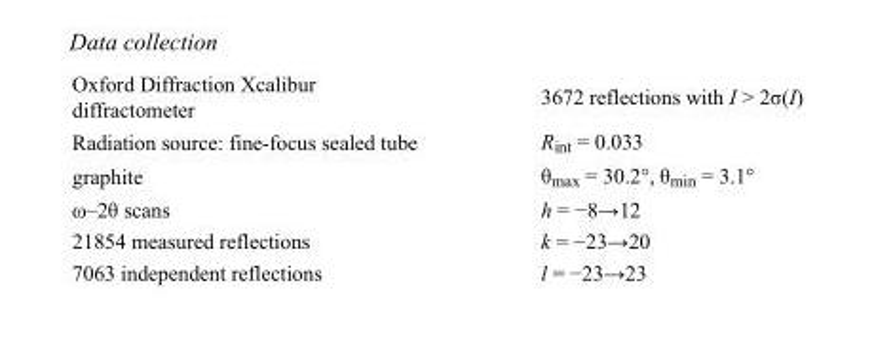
<table><tbody><tr><td>Oxford Diffraction Xcalibur diffractometer</td><td>3672 reflections with I &gt; 2σ(I)</td></tr><tr><td>Radiation source: fine-focus sealed tube</td><td>R<sub>int</sub> = 0.033</td></tr><tr><td>graphite</td><td>θ<sub>max</sub> = 30.2°, θ<sub>min</sub> = 3.1°</td></tr><tr><td>ω–2θ scans</td><td>h = −8→12</td></tr><tr><td>21854 measured reflections</td><td>k = −23→20</td></tr><tr><td>7063 independent reflections</td><td>l = −23→23</td></tr></tbody></table>